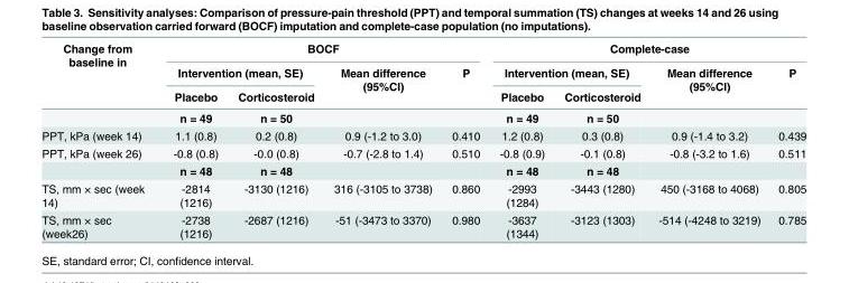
<table><thead><tr><td rowspan="3">Change from baseline in</td><td colspan="4">BOCF</td><td colspan="4">Complete-case</td></tr><tr><td colspan="2">Intervention (mean, SE)</td><td rowspan="2">Mean difference (95%CI)</td><td rowspan="2">P</td><td colspan="2">Intervention (mean, SE)</td><td rowspan="2">Mean difference (95%CI)</td><td rowspan="2">P</td></tr><tr><td>Placebo</td><td>Corticosteroid</td><td>Placebo</td><td>Corticosteroid</td></tr></thead><tbody><tr><td></td><td>n = 49</td><td>n = 50</td><td></td><td></td><td>n = 49</td><td>n = 50</td><td></td><td></td></tr><tr><td>PPT, kPa (week 14)</td><td>1.1 (0.8)</td><td>0.2 (0.8)</td><td>0.9 (-1.2 to 3.0)</td><td>0.410</td><td>1.2 (0.8)</td><td>0.3 (0.8)</td><td>0.9 (-1.4 to 3.2)</td><td>0.439</td></tr><tr><td rowspan="2">PPT, kPa (week 26)</td><td>-0.8 (0.8)</td><td>-0.0 (0.8)</td><td>-0.7 (-2.8 to 1.4)</td><td>0.510</td><td>-0.8 (0.9)</td><td>-0.1 (0.8)</td><td>-0.8 (-3.2 to 1.6)</td><td>0.511</td></tr><tr><td>n = 48</td><td>n = 48</td><td></td><td></td><td>n = 48</td><td>n = 48</td><td></td><td></td></tr><tr><td>TS, mm × sec (week 14)</td><td>-2814 (1216)</td><td>-3130 (1216)</td><td>316 (-3105 to 3738)</td><td>0.860</td><td>-2993 (1284)</td><td>-3443 (1280)</td><td>450 (-3168 to 4068)</td><td>0.805</td></tr><tr><td>TS, mm × sec (week26)</td><td>-2738 (1216)</td><td>-2687 (1216)</td><td>-51 (-3473 to 3370)</td><td>0.980</td><td>-3637 (1344)</td><td>-3123 (1303)</td><td>-514 (-4248 to 3219)</td><td>0.785</td></tr></tbody></table>